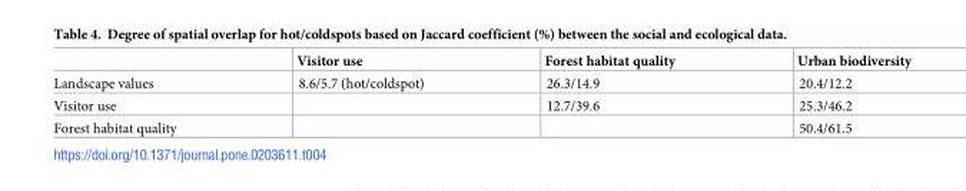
<table><thead><tr><td></td><td>Visitor use</td><td>Forest habitat quality</td><td>Urban biodiversity</td></tr></thead><tbody><tr><td>Landscape values</td><td>8.6/5.7 (hot/coldspot)</td><td>26.3/14.9</td><td>20.4/12.2</td></tr><tr><td>Visitor use</td><td></td><td>12.7/39.6</td><td>25.3/46.2</td></tr><tr><td>Forest habitat quality</td><td></td><td></td><td>50.4/61.5</td></tr></tbody></table>